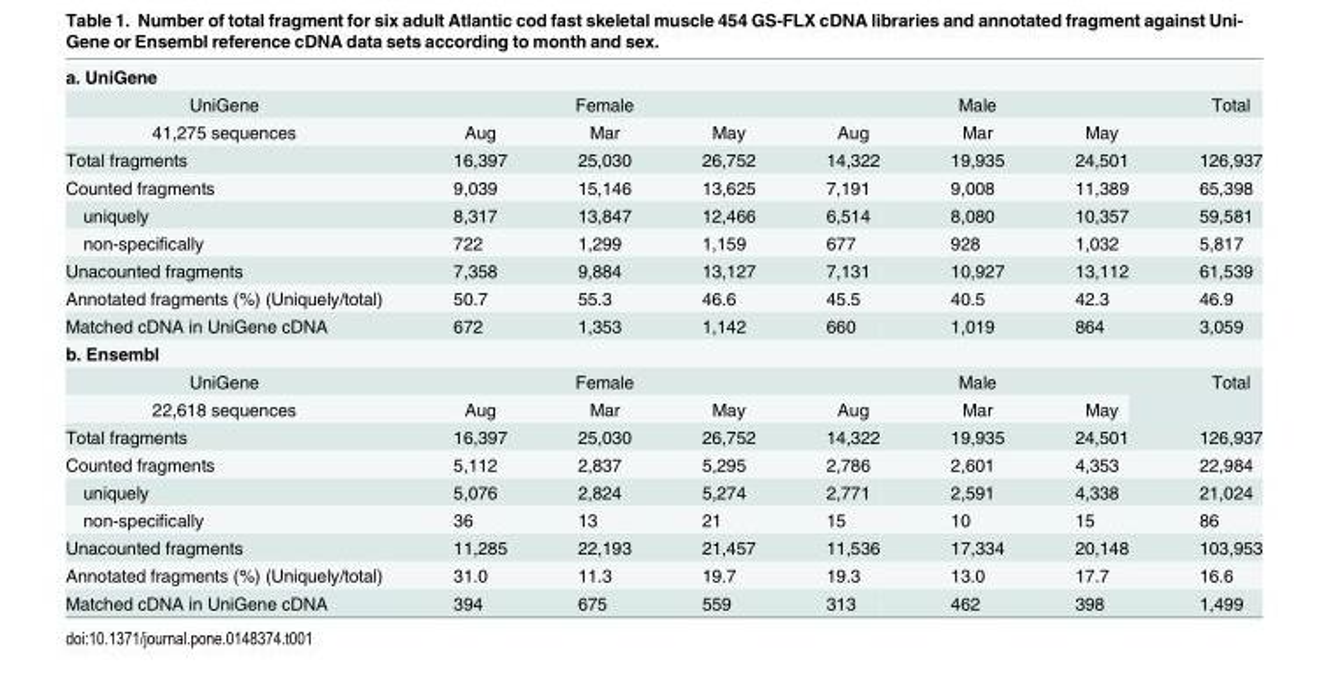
<table><tbody><tr><td colspan="8">a. UniGene</td></tr><tr><td>UniGene</td><td colspan="3">Female</td><td colspan="3">Male</td><td>Total</td></tr><tr><td>41,275 sequences</td><td>Aug</td><td>Mar</td><td>May</td><td>Aug</td><td>Mar</td><td>May</td><td></td></tr><tr><td>Total fragments</td><td>16,397</td><td>25,030</td><td>26,752</td><td>14,322</td><td>19,935</td><td>24,501</td><td>126,937</td></tr><tr><td>Counted fragments</td><td>9,039</td><td>15,146</td><td>13,625</td><td>7,191</td><td>9,008</td><td>11,389</td><td>65,398</td></tr><tr><td>uniquely</td><td>8,317</td><td>13,847</td><td>12,466</td><td>6,514</td><td>8,080</td><td>10,357</td><td>59,581</td></tr><tr><td>non-specifically</td><td>722</td><td>1,299</td><td>1,159</td><td>677</td><td>928</td><td>1,032</td><td>5,817</td></tr><tr><td>Unacounted fragments</td><td>7,358</td><td>9,884</td><td>13,127</td><td>7,131</td><td>10,927</td><td>13,112</td><td>61,539</td></tr><tr><td>Annotated fragments (%) (Uniquely/total)</td><td>50.7</td><td>55.3</td><td>46.6</td><td>45.5</td><td>40.5</td><td>42.3</td><td>46.9</td></tr><tr><td>Matched cDNA in UniGene cDNA</td><td>672</td><td>1,353</td><td>1,142</td><td>660</td><td>1,019</td><td>864</td><td>3,059</td></tr><tr><td colspan="8">b. Ensembl</td></tr><tr><td>UniGene</td><td colspan="3">Female</td><td colspan="3">Male</td><td rowspan="2">Total</td></tr><tr><td>22,618 sequences</td><td>Aug</td><td>Mar</td><td>May</td><td>Aug</td><td>Mar</td><td>May</td></tr><tr><td>Total fragments</td><td>16,397</td><td>25,030</td><td>26,752</td><td>14,322</td><td>19,935</td><td>24,501</td><td>126,937</td></tr><tr><td>Counted fragments</td><td>5,112</td><td>2,837</td><td>5,295</td><td>2,786</td><td>2,601</td><td>4,353</td><td>22,984</td></tr><tr><td>uniquely</td><td>5,076</td><td>2,824</td><td>5,274</td><td>2,771</td><td>2,591</td><td>4,338</td><td>21,024</td></tr><tr><td>non-specifically</td><td>36</td><td>13</td><td>21</td><td>15</td><td>10</td><td>15</td><td>86</td></tr><tr><td>Unacounted fragments</td><td>11,285</td><td>22,193</td><td>21,457</td><td>11,536</td><td>17,334</td><td>20,148</td><td>103,953</td></tr><tr><td>Annotated fragments (%) (Uniquely/total)</td><td>31.0</td><td>11.3</td><td>19.7</td><td>19.3</td><td>13.0</td><td>17.7</td><td>16.6</td></tr><tr><td>Matched cDNA in UniGene cDNA</td><td>394</td><td>675</td><td>559</td><td>313</td><td>462</td><td>398</td><td>1,499</td></tr></tbody></table>